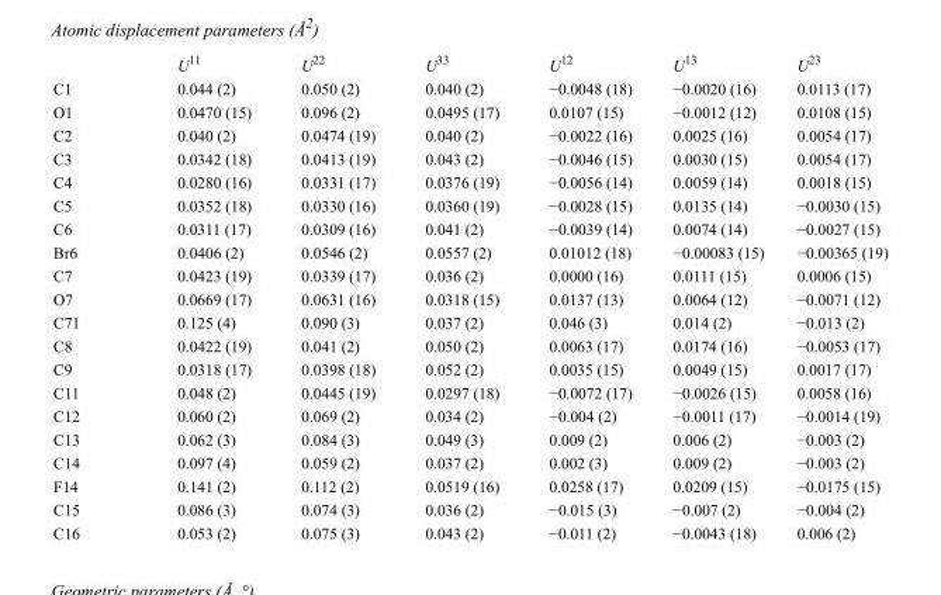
<table><thead><tr><td></td><td>U<sup>11</sup></td><td>U<sup>22</sup></td><td>U<sup>33</sup></td><td>U<sup>12</sup></td><td>U<sup>13</sup></td><td>U<sup>23</sup></td></tr></thead><tbody><tr><td>C1</td><td>0.044 (2)</td><td>0.050 (2)</td><td>0.040 (2)</td><td>−0.0048 (18)</td><td>−0.0020 (16)</td><td>0.0113 (17)</td></tr><tr><td>O1</td><td>0.0470 (15)</td><td>0.096 (2)</td><td>0.0495 (17)</td><td>0.0107 (15)</td><td>−0.0012 (12)</td><td>0.0108 (15)</td></tr><tr><td>C2</td><td>0.040 (2)</td><td>0.0474 (19)</td><td>0.040 (2)</td><td>−0.0022 (16)</td><td>0.0025 (16)</td><td>0.0054 (17)</td></tr><tr><td>C3</td><td>0.0342 (18)</td><td>0.0413 (19)</td><td>0.043 (2)</td><td>−0.0046 (15)</td><td>0.0030 (15)</td><td>0.0054 (17)</td></tr><tr><td>C4</td><td>0.0280 (16)</td><td>0.0331 (17)</td><td>0.0376 (19)</td><td>−0.0056 (14)</td><td>0.0059 (14)</td><td>0.0018 (15)</td></tr><tr><td>C5</td><td>0.0352 (18)</td><td>0.0330 (16)</td><td>0.0360 (19)</td><td>−0.0028 (15)</td><td>0.0135 (14)</td><td>−0.0030 (15)</td></tr><tr><td>C6</td><td>0.0311 (17)</td><td>0.0309 (16)</td><td>0.041 (2)</td><td>−0.0039 (14)</td><td>0.0074 (14)</td><td>−0.0027 (15)</td></tr><tr><td>Br6</td><td>0.0406 (2)</td><td>0.0546 (2)</td><td>0.0557 (2)</td><td>0.01012 (18)</td><td>−0.00083 (15)</td><td>−0.00365 (19)</td></tr><tr><td>C7</td><td>0.0423 (19)</td><td>0.0339 (17)</td><td>0.036 (2)</td><td>0.0000 (16)</td><td>0.0111 (15)</td><td>0.0006 (15)</td></tr><tr><td>O7</td><td>0.0669 (17)</td><td>0.0631 (16)</td><td>0.0318 (15)</td><td>0.0137 (13)</td><td>0.0064 (12)</td><td>−0.0071 (12)</td></tr><tr><td>C71</td><td>0.125 (4)</td><td>0.090 (3)</td><td>0.037 (2)</td><td>0.046 (3)</td><td>0.014 (2)</td><td>−0.013 (2)</td></tr><tr><td>C8</td><td>0.0422 (19)</td><td>0.041 (2)</td><td>0.050 (2)</td><td>0.0063 (17)</td><td>0.0174 (16)</td><td>−0.0053 (17)</td></tr><tr><td>C9</td><td>0.0318 (17)</td><td>0.0398 (18)</td><td>0.052 (2)</td><td>0.0035 (15)</td><td>0.0049 (15)</td><td>0.0017 (17)</td></tr><tr><td>C11</td><td>0.048 (2)</td><td>0.0445 (19)</td><td>0.0297 (18)</td><td>−0.0072 (17)</td><td>−0.0026 (15)</td><td>0.0058 (16)</td></tr><tr><td>C12</td><td>0.060 (2)</td><td>0.069 (2)</td><td>0.034 (2)</td><td>−0.004 (2)</td><td>−0.0011 (17)</td><td>−0.0014 (19)</td></tr><tr><td>C13</td><td>0.062 (3)</td><td>0.084 (3)</td><td>0.049 (3)</td><td>0.009 (2)</td><td>0.006 (2)</td><td>−0.003 (2)</td></tr><tr><td>C14</td><td>0.097 (4)</td><td>0.059 (2)</td><td>0.037 (2)</td><td>0.002 (3)</td><td>0.009 (2)</td><td>−0.003 (2)</td></tr><tr><td>F14</td><td>0.141 (2)</td><td>0.112 (2)</td><td>0.0519 (16)</td><td>0.0258 (17)</td><td>0.0209 (15)</td><td>−0.0175 (15)</td></tr><tr><td>C15</td><td>0.086 (3)</td><td>0.074 (3)</td><td>0.036 (2)</td><td>−0.015 (3)</td><td>−0.007 (2)</td><td>−0.004 (2)</td></tr><tr><td>C16</td><td>0.053 (2)</td><td>0.075 (3)</td><td>0.043 (2)</td><td>−0.011 (2)</td><td>−0.0043 (18)</td><td>0.006 (2)</td></tr></tbody></table>